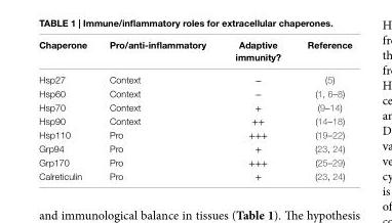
<table><thead><tr><td>Chaperone</td><td>Pro/anti-inflammatory</td><td>Adaptive immunity?</td><td>Reference</td></tr></thead><tbody><tr><td>Hsp27</td><td>Context</td><td>−</td><td>(5)</td></tr><tr><td>Hsp60</td><td>Context</td><td>−</td><td>(1, 6–8)</td></tr><tr><td>Hsp70</td><td>Context</td><td>+</td><td>(9–14)</td></tr><tr><td>Hsp90</td><td>Context</td><td>++</td><td>(14–18)</td></tr><tr><td>Hsp110</td><td>Pro</td><td>+++</td><td>(19–22)</td></tr><tr><td>Grp94</td><td>Pro</td><td>+</td><td>(23, 24)</td></tr><tr><td>Grp170</td><td>Pro</td><td>+++</td><td>(25–29)</td></tr><tr><td>Calreticulin</td><td>Pro</td><td>+</td><td>(23, 24)</td></tr></tbody></table>